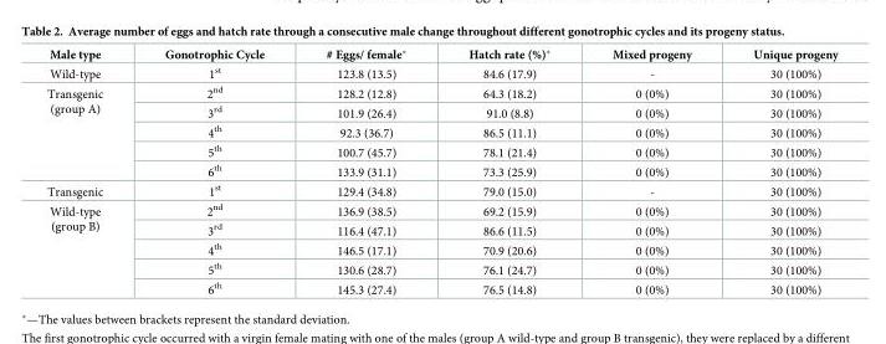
<table><thead><tr><td>Male type</td><td>Gonotrophic Cycle</td><td># Eggs/ female*</td><td>Hatch rate (%)*</td><td>Mixed progeny</td><td>Unique progeny</td></tr></thead><tbody><tr><td>Wild-type</td><td>1<sup>st</sup></td><td>123.8 (13.5)</td><td>84.6 (17.9)</td><td>-</td><td>30 (100%)</td></tr><tr><td rowspan="5">Transgenic (group A)</td><td>2<sup>nd</sup></td><td>128.2 (12.8)</td><td>64.3 (18.2)</td><td>0 (0%)</td><td>30 (100%)</td></tr><tr><td>3<sup>rd</sup></td><td>101.9 (26.4)</td><td>91.0 (8.8)</td><td>0 (0%)</td><td>30 (100%)</td></tr><tr><td>4<sup>th</sup></td><td>92.3 (36.7)</td><td>86.5 (11.1)</td><td>0 (0%)</td><td>30 (100%)</td></tr><tr><td>5<sup>th</sup></td><td>100.7 (45.7)</td><td>78.1 (21.4)</td><td>0 (0%)</td><td>30 (100%)</td></tr><tr><td>6<sup>th</sup></td><td>133.9 (31.1)</td><td>73.3 (25.9)</td><td>0 (0%)</td><td>30 (100%)</td></tr><tr><td>Transgenic</td><td>1<sup>st</sup></td><td>129.4 (34.8)</td><td>79.0 (15.0)</td><td>-</td><td>30 (100%)</td></tr><tr><td rowspan="5">Wild-type (group B)</td><td>2<sup>nd</sup></td><td>136.9 (38.5)</td><td>69.2 (15.9)</td><td>0 (0%)</td><td>30 (100%)</td></tr><tr><td>3<sup>rd</sup></td><td>116.4 (47.1)</td><td>86.6 (11.5)</td><td>0 (0%)</td><td>30 (100%)</td></tr><tr><td>4<sup>th</sup></td><td>146.5 (17.1)</td><td>70.9 (20.6)</td><td>0 (0%)</td><td>30 (100%)</td></tr><tr><td>5<sup>th</sup></td><td>130.6 (28.7)</td><td>76.1 (24.7)</td><td>0 (0%)</td><td>30 (100%)</td></tr><tr><td>6<sup>th</sup></td><td>145.3 (27.4)</td><td>76.5 (14.8)</td><td>0 (0%)</td><td>30 (100%)</td></tr></tbody></table>